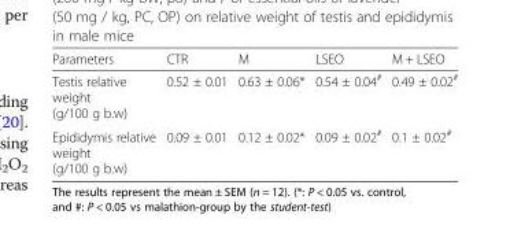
<table><thead><tr><td>Parameters</td><td>CTR</td><td>M</td><td>LSEO</td><td>M + LSEO</td></tr></thead><tbody><tr><td>Testis relative weight (g/100 g b.w)</td><td>0.52 ± 0.01</td><td>0.63 ± 0.06*</td><td>0.54 ± 0.04<sup>#</sup></td><td>0.49 ± 0.02<sup>#</sup></td></tr><tr><td>Epididymis relative weight (g/100 g b.w)</td><td>0.09 ± 0.01</td><td>0.12 ± 0.02*</td><td>0.09 ± 0.02<sup>#</sup></td><td>0.1 ± 0.02<sup>#</sup></td></tr></tbody></table>